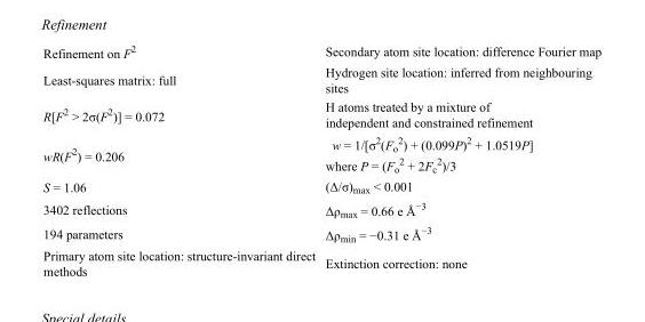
<table><tbody><tr><td>Refinement on F<sup>2</sup></td><td>Secondary atom site location: difference Fourier map</td></tr><tr><td>Least-squares matrix: full</td><td>Hydrogen site location: inferred from neighbouring sites</td></tr><tr><td>R[F<sup>2</sup> &gt; 2σ(F<sup>2</sup>)] = 0.072</td><td>H atoms treated by a mixture of independent and constrained refinement</td></tr><tr><td>wR(F<sup>2</sup>) = 0.206</td><td>w = 1/[σ<sup>2</sup>(F<sub>o</sub> <sup>2</sup>) + (0.099P)<sup>2</sup> + 1.0519P] where P = (F<sub>o</sub> <sup>2</sup> + 2F<sub>c</sub> <sup>2</sup>)/3</td></tr><tr><td>S = 1.06</td><td>(Δ/σ)<sub>max</sub> &lt; 0.001</td></tr><tr><td>3402 reflections</td><td>Δρ<sub>max</sub> = 0.66 e Å<sup>−3</sup></td></tr><tr><td>194 parameters</td><td>Δρ<sub>min</sub> = −0.31 e Å<sup>−3</sup></td></tr><tr><td>Primary atom site location: structure-invariant direct methods</td><td>Extinction correction: none</td></tr></tbody></table>